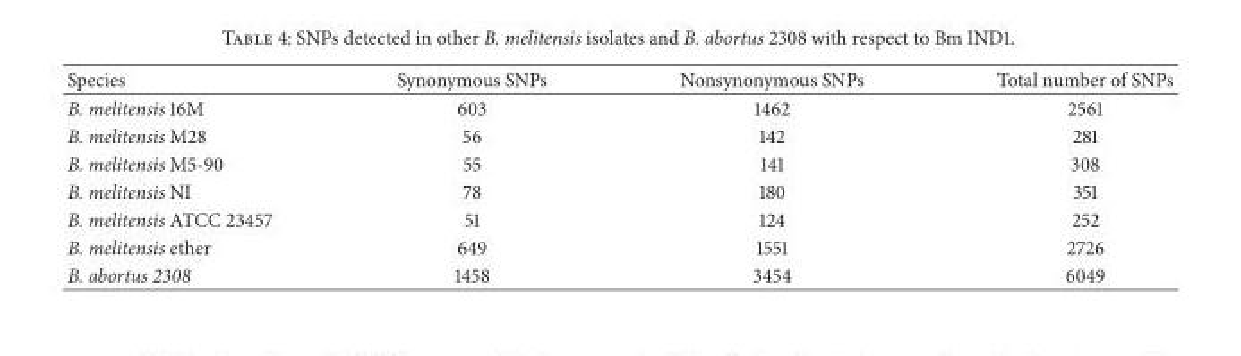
<table><thead><tr><td>Species</td><td>Synonymous SNPs</td><td>Nonsynonymous SNPs</td><td>Total number of SNPs</td></tr></thead><tbody><tr><td>B. melitensis 16M</td><td>603</td><td>1462</td><td>2561</td></tr><tr><td>B. melitensis M28</td><td>56</td><td>142</td><td>281</td></tr><tr><td>B. melitensis M5-90</td><td>55</td><td>141</td><td>308</td></tr><tr><td>B. melitensis NI</td><td>78</td><td>180</td><td>351</td></tr><tr><td>B. melitensis ATCC 23457</td><td>51</td><td>124</td><td>252</td></tr><tr><td>B. melitensis ether</td><td>649</td><td>1551</td><td>2726</td></tr><tr><td>B. abortus 2308</td><td>1458</td><td>3454</td><td>6049</td></tr></tbody></table>